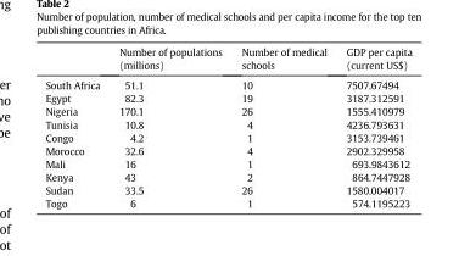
<table><thead><tr><td></td><td>Number of populations (millions)</td><td>Number of medical schools</td><td>GDP per capita (current US$)</td></tr></thead><tbody><tr><td>South Africa</td><td>51.1</td><td>10</td><td>7507.67494</td></tr><tr><td>Egypt</td><td>82.3</td><td>19</td><td>3187.312591</td></tr><tr><td>Nigeria</td><td>170.1</td><td>26</td><td>1555.410979</td></tr><tr><td>Tunisia</td><td>10.8</td><td>4</td><td>4236.793631</td></tr><tr><td>Congo</td><td>4.2</td><td>1</td><td>3153.739461</td></tr><tr><td>Morocco</td><td>32.6</td><td>4</td><td>2902.329958</td></tr><tr><td>Mali</td><td>16</td><td>1</td><td>693.9843612</td></tr><tr><td>Kenya</td><td>43</td><td>2</td><td>864.7447928</td></tr><tr><td>Sudan</td><td>33.5</td><td>26</td><td>1580.004017</td></tr><tr><td>Togo</td><td>6</td><td>1</td><td>574.1195223</td></tr></tbody></table>